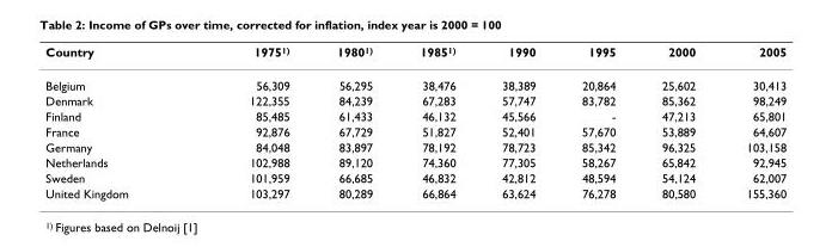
<table><thead><tr><td>Country</td><td>1975<sup>1)</sup></td><td>1980<sup>1)</sup></td><td>1985<sup>1)</sup></td><td>1990</td><td>1995</td><td>2000</td><td>2005</td></tr></thead><tbody><tr><td>Belgium</td><td>56,309</td><td>56,295</td><td>38,476</td><td>38,389</td><td>20,864</td><td>25,602</td><td>30,413</td></tr><tr><td>Denmark</td><td>122,355</td><td>84,239</td><td>67,283</td><td>57,747</td><td>83,782</td><td>85,362</td><td>98,249</td></tr><tr><td>Finland</td><td>85,485</td><td>61,433</td><td>46,132</td><td>45,566</td><td>-</td><td>47,213</td><td>65,801</td></tr><tr><td>France</td><td>92,876</td><td>67,729</td><td>51,827</td><td>52,401</td><td>57,670</td><td>53,889</td><td>64,607</td></tr><tr><td>Germany</td><td>84,048</td><td>83,897</td><td>78,192</td><td>78,723</td><td>85,342</td><td>96,325</td><td>103,158</td></tr><tr><td>Netherlands</td><td>102,988</td><td>89,120</td><td>74,360</td><td>77,305</td><td>58,267</td><td>65,842</td><td>92,945</td></tr><tr><td>Sweden</td><td>101,959</td><td>66,685</td><td>46,832</td><td>42,812</td><td>48,594</td><td>54,124</td><td>62,007</td></tr><tr><td>United Kingdom</td><td>103,297</td><td>80,289</td><td>66,864</td><td>63,624</td><td>76,278</td><td>80,580</td><td>155,360</td></tr></tbody></table>